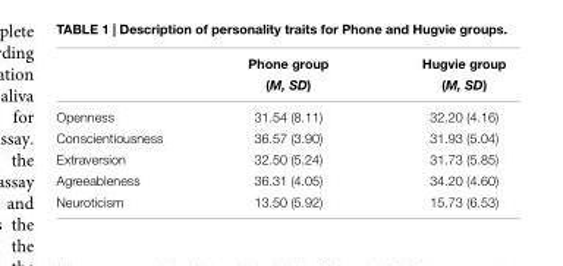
<table><thead><tr><td rowspan="2"></td><td rowspan="2">Phone group (M, SD)</td><td rowspan="2">Hugvie group (M, SD)</td></tr><tr></tr></thead><tbody><tr><td>Openness</td><td>31.54 (8.11)</td><td>32.20 (4.16)</td></tr><tr><td>Conscientiousness</td><td>36.57 (3.90)</td><td>31.93 (5.04)</td></tr><tr><td>Extraversion</td><td>32.50 (5.24)</td><td>31.73 (5.85)</td></tr><tr><td>Agreeableness</td><td>36.31 (4.05)</td><td>34.20 (4.60)</td></tr><tr><td>Neuroticism</td><td>13.50 (5.92)</td><td>15.73 (6.53)</td></tr></tbody></table>